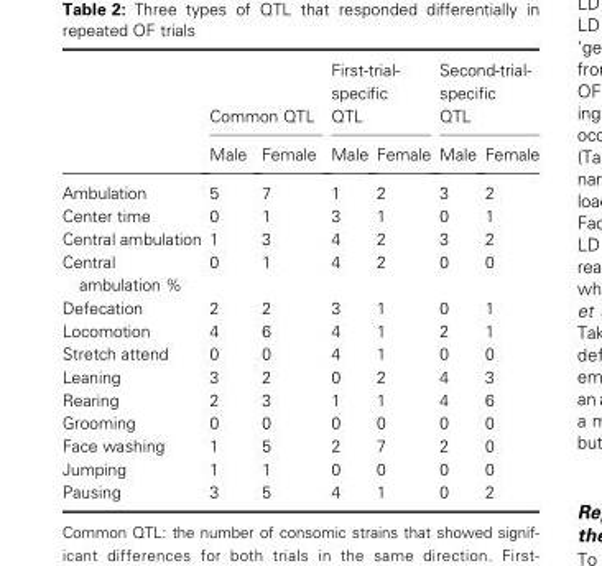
<table><thead><tr><td rowspan="2"></td><td colspan="2">Common QTL</td><td colspan="2">First-trial- specific QTL</td><td colspan="2">Second-trial- specific QTL</td></tr><tr><td>Male</td><td>Female</td><td>Male</td><td>Female</td><td>Male</td><td>Female</td></tr></thead><tbody><tr><td>Ambulation</td><td>5</td><td>7</td><td>1</td><td>2</td><td>3</td><td>2</td></tr><tr><td>Center time</td><td>0</td><td>1</td><td>3</td><td>1</td><td>0</td><td>1</td></tr><tr><td>Central ambulation</td><td>1</td><td>3</td><td>4</td><td>2</td><td>3</td><td>2</td></tr><tr><td>Central ambulation %</td><td>0</td><td>1</td><td>4</td><td>2</td><td>0</td><td>0</td></tr><tr><td>Defecation</td><td>2</td><td>2</td><td>3</td><td>1</td><td>0</td><td>1</td></tr><tr><td>Locomotion</td><td>4</td><td>6</td><td>4</td><td>1</td><td>2</td><td>1</td></tr><tr><td>Stretch attend</td><td>0</td><td>0</td><td>4</td><td>1</td><td>0</td><td>0</td></tr><tr><td>Leaning</td><td>3</td><td>2</td><td>0</td><td>2</td><td>4</td><td>3</td></tr><tr><td>Rearing</td><td>2</td><td>3</td><td>1</td><td>1</td><td>4</td><td>6</td></tr><tr><td>Grooming</td><td>0</td><td>0</td><td>0</td><td>0</td><td>0</td><td>0</td></tr><tr><td>Face washing</td><td>1</td><td>5</td><td>2</td><td>7</td><td>2</td><td>0</td></tr><tr><td>Jumping</td><td>1</td><td>1</td><td>0</td><td>0</td><td>0</td><td>0</td></tr><tr><td>Pausing</td><td>3</td><td>5</td><td>4</td><td>1</td><td>0</td><td>2</td></tr></tbody></table>